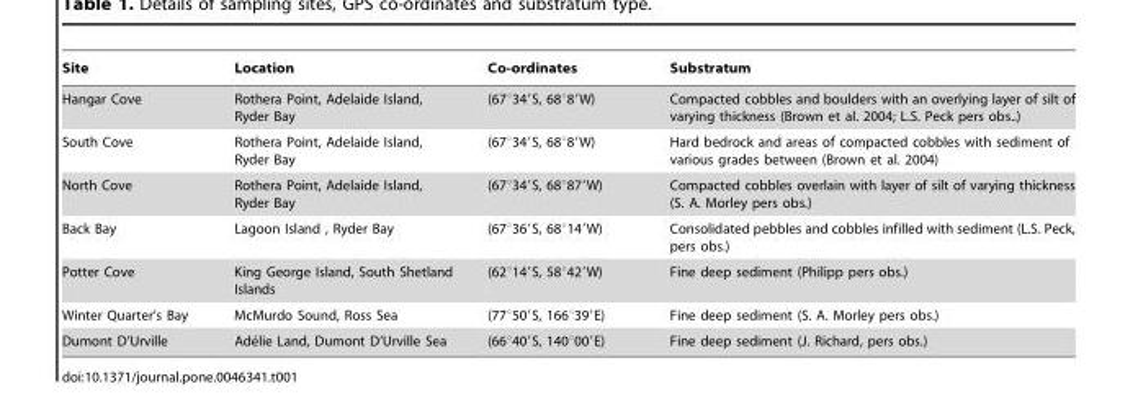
<table><thead><tr><td>Site</td><td>Location</td><td>Co-ordinates</td><td>Substratum</td></tr></thead><tbody><tr><td>Hangar Cove</td><td>Rothera Point, Adelaide Island, Ryder Bay</td><td>(67°34′S, 68°8′W)</td><td>Compacted cobbles and boulders with an overlying layer of silt of varying thickness (Brown et al. 2004; L.S. Peck pers obs..)</td></tr><tr><td>South Cove</td><td>Rothera Point, Adelaide Island, Ryder Bay</td><td>(67°34′S, 68°8′W)</td><td>Hard bedrock and areas of compacted cobbles with sediment of various grades between (Brown et al. 2004)</td></tr><tr><td>North Cove</td><td>Rothera Point, Adelaide Island, Ryder Bay</td><td>(67°34′S, 68°87′W)</td><td>Compacted cobbles overlain with layer of silt of varying thickness (S. A. Morley pers obs.)</td></tr><tr><td>Back Bay</td><td>Lagoon Island , Ryder Bay</td><td>(67°36′S, 68°14′W)</td><td>Consolidated pebbles and cobbles infilled with sediment (L.S. Peck, pers obs.)</td></tr><tr><td>Potter Cove</td><td>King George Island, South Shetland Islands</td><td>(62°14′S, 58°42′W)</td><td>Fine deep sediment (Philipp pers obs.)</td></tr><tr><td>Winter Quarter’s Bay</td><td>McMurdo Sound, Ross Sea</td><td>(77°50′S, 166°39′E)</td><td>Fine deep sediment (S. A. Morley pers obs.)</td></tr><tr><td>Dumont D’Urville</td><td>Ade´lie Land, Dumont D’Urville Sea</td><td>(66°40′S, 140°00′E)</td><td>Fine deep sediment (J. Richard, pers obs.)</td></tr></tbody></table>